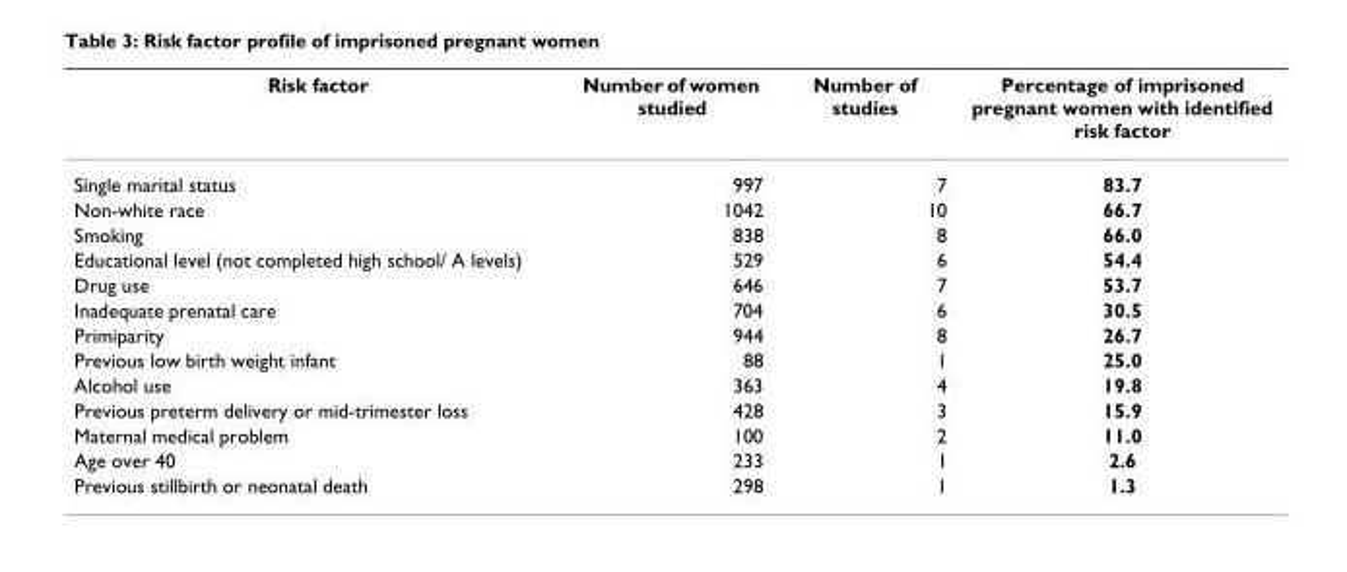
<table><thead><tr><td>Risk factor</td><td>Number of women studied</td><td>Number of studies</td><td>Percentage of imprisoned pregnant women with identified risk factor</td></tr></thead><tbody><tr><td>Single marital status</td><td>997</td><td>7</td><td>83.7</td></tr><tr><td>Non-white race</td><td>1042</td><td>10</td><td>66.7</td></tr><tr><td>Smoking</td><td>838</td><td>8</td><td>66.0</td></tr><tr><td>Educational level (not completed high school/ A levels)</td><td>529</td><td>6</td><td>54.4</td></tr><tr><td>Drug use</td><td>646</td><td>7</td><td>53.7</td></tr><tr><td>Inadequate prenatal care</td><td>704</td><td>6</td><td>30.5</td></tr><tr><td>Primiparity</td><td>944</td><td>8</td><td>26.7</td></tr><tr><td>Previous low birth weight infant</td><td>88</td><td>1</td><td>25.0</td></tr><tr><td>Alcohol use</td><td>363</td><td>4</td><td>19.8</td></tr><tr><td>Previous preterm delivery or mid-trimester loss</td><td>428</td><td>3</td><td>15.9</td></tr><tr><td>Maternal medical problem</td><td>100</td><td>2</td><td>11.0</td></tr><tr><td>Age over 40</td><td>233</td><td>1</td><td>2.6</td></tr><tr><td>Previous stillbirth or neonatal death</td><td>298</td><td>1</td><td>1.3</td></tr></tbody></table>